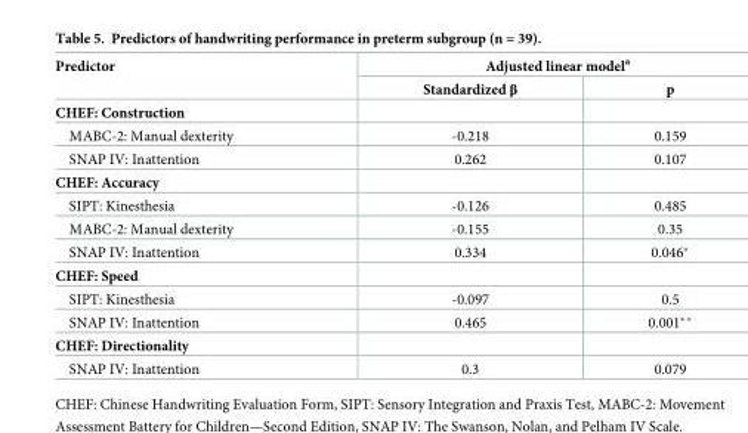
<table><thead><tr><td rowspan="2">Predictor</td><td colspan="2">Adjusted linear model<sup>a</sup></td></tr><tr><td>Standardized β</td><td>p</td></tr></thead><tbody><tr><td colspan="3">CHEF: Construction</td></tr><tr><td>MABC-2: Manual dexterity</td><td>-0.218</td><td>0.159</td></tr><tr><td>SNAP IV: Inattention</td><td>0.262</td><td>0.107</td></tr><tr><td colspan="3">CHEF: Accuracy</td></tr><tr><td>SIPT: Kinesthesia</td><td>-0.126</td><td>0.485</td></tr><tr><td>MABC-2: Manual dexterity</td><td>-0.155</td><td>0.35</td></tr><tr><td>SNAP IV: Inattention</td><td>0.334</td><td>0.046*</td></tr><tr><td colspan="3">CHEF: Speed</td></tr><tr><td>SIPT: Kinesthesia</td><td>-0.097</td><td>0.5</td></tr><tr><td>SNAP IV: Inattention</td><td>0.465</td><td>0.001**</td></tr><tr><td colspan="3">CHEF: Directionality</td></tr><tr><td>SNAP IV: Inattention</td><td>0.3</td><td>0.079</td></tr></tbody></table>